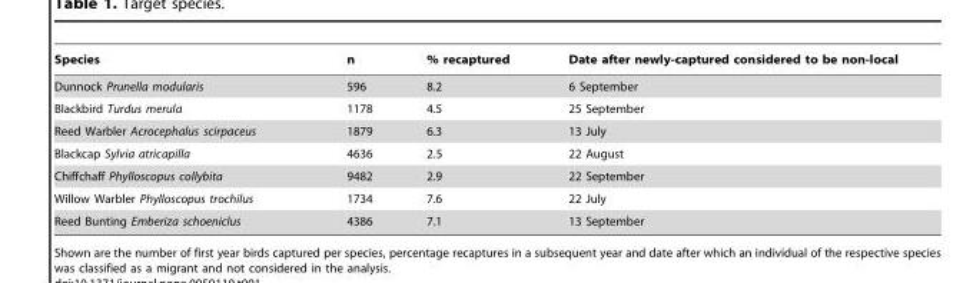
<table><thead><tr><td>Species</td><td>n</td><td>% recaptured</td><td>Date after newly-captured considered to be non-local</td></tr></thead><tbody><tr><td>Dunnock Prunella modularis</td><td>596</td><td>8.2</td><td>6 September</td></tr><tr><td>Blackbird Turdus merula</td><td>1178</td><td>4.5</td><td>25 September</td></tr><tr><td>Reed Warbler Acrocephalus scirpaceus</td><td>1879</td><td>6.3</td><td>13 July</td></tr><tr><td>Blackcap Sylvia atricapilla</td><td>4636</td><td>2.5</td><td>22 August</td></tr><tr><td>Chiffchaff Phylloscopus collybita</td><td>9482</td><td>2.9</td><td>22 September</td></tr><tr><td>Willow Warbler Phylloscopus trochilus</td><td>1734</td><td>7.6</td><td>22 July</td></tr><tr><td>Reed Bunting Emberiza schoeniclus</td><td>4386</td><td>7.1</td><td>13 September</td></tr></tbody></table>